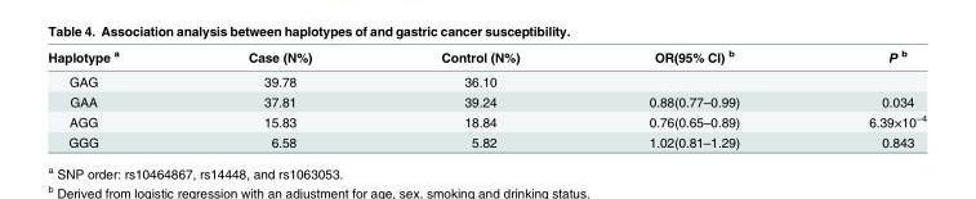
<table><thead><tr><td>Haplotype <sup>a</sup></td><td>Case (N%)</td><td>Control (N%)</td><td>OR(95% CI) <sup>b</sup></td><td>P <sup>b</sup></td></tr></thead><tbody><tr><td>GAG</td><td>39.78</td><td>36.10</td><td></td><td></td></tr><tr><td>GAA</td><td>37.81</td><td>39.24</td><td>0.88(0.77–0.99)</td><td>0.034</td></tr><tr><td>AGG</td><td>15.83</td><td>18.84</td><td>0.76(0.65–0.89)</td><td>6.39×10<sup>−4</sup></td></tr><tr><td>GGG</td><td>6.58</td><td>5.82</td><td>1.02(0.81–1.29)</td><td>0.843</td></tr></tbody></table>